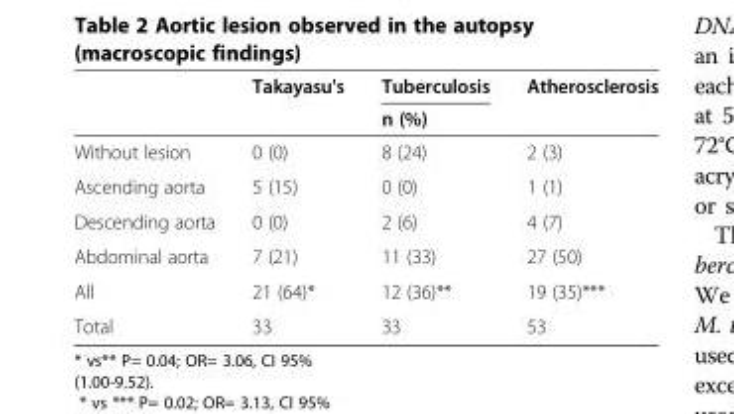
<table><thead><tr><td rowspan="2"></td><td rowspan="2">Takayasu&#x27;s</td><td rowspan="2">Tuberculosis n (%)</td><td rowspan="2">Atherosclerosis</td></tr><tr></tr></thead><tbody><tr><td>Without lesion</td><td>0 (0)</td><td>8 (24)</td><td>2 (3)</td></tr><tr><td>Ascending aorta</td><td>5 (15)</td><td>0 (0)</td><td>1 (1)</td></tr><tr><td>Descending aorta</td><td>0 (0)</td><td>2 (6)</td><td>4 (7)</td></tr><tr><td>Abdominal aorta</td><td>7 (21)</td><td>11 (33)</td><td>27 (50)</td></tr><tr><td>All</td><td>21 (64)*</td><td>12 (36)**</td><td>19 (35)***</td></tr><tr><td>Total</td><td>33</td><td>33</td><td>53</td></tr></tbody></table>